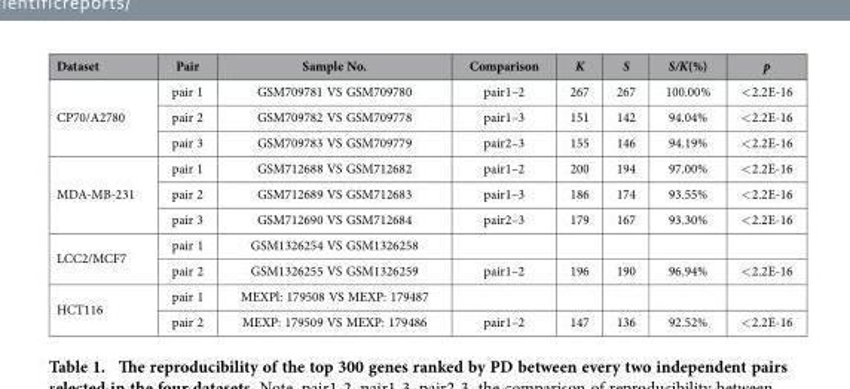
<table><thead><tr><td>Dataset</td><td>Pair</td><td>Sample No.</td><td>Comparison</td><td>K</td><td>S</td><td>S/K(%)</td><td>p</td></tr></thead><tbody><tr><td rowspan="3">CP70/A2780</td><td>pair 1</td><td>GSM709781 VS GSM709780</td><td>pair1–2</td><td>267</td><td>267</td><td>100.00%</td><td>&lt; 2.2E-16</td></tr><tr><td>pair 2</td><td>GSM709782 VS GSM709778</td><td>pair1–3</td><td>151</td><td>142</td><td>94.04%</td><td>&lt; 2.2E-16</td></tr><tr><td>pair 3</td><td>GSM709783 VS GSM709779</td><td>pair2–3</td><td>155</td><td>146</td><td>94.19%</td><td>&lt; 2.2E-16</td></tr><tr><td rowspan="3">MDA-MB-231</td><td>pair 1</td><td>GSM712688 VS GSM712682</td><td>pair1–2</td><td>200</td><td>194</td><td>97.00%</td><td>&lt; 2.2E-16</td></tr><tr><td>pair 2</td><td>GSM712689 VS GSM712683</td><td>pair1–3</td><td>186</td><td>174</td><td>93.55%</td><td>&lt; 2.2E-16</td></tr><tr><td>pair 3</td><td>GSM712690 VS GSM712684</td><td>pair2–3</td><td>179</td><td>167</td><td>93.30%</td><td>&lt; 2.2E-16</td></tr><tr><td rowspan="2">LCC2/MCF7</td><td>pair 1</td><td>GSM1326254 VS GSM1326258</td><td></td><td></td><td></td><td></td><td></td></tr><tr><td>pair 2</td><td>GSM1326255 VS GSM1326259</td><td>pair1–2</td><td>196</td><td>190</td><td>96.94%</td><td>&lt; 2.2E-16</td></tr><tr><td rowspan="2">HCT116</td><td>pair 1</td><td>MEXPl: 179508 VS MEXP: 179487</td><td></td><td></td><td></td><td></td><td></td></tr><tr><td>pair 2</td><td>MEXP: 179509 VS MEXP: 179486</td><td>pair1–2</td><td>147</td><td>136</td><td>92.52%</td><td>&lt; 2.2E-16</td></tr></tbody></table>